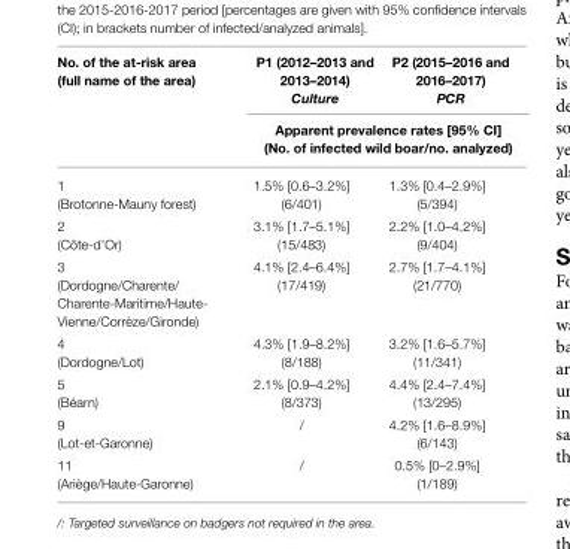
<table><thead><tr><td rowspan="2">No. of the at-risk area (full name of the area)</td><td>P1 (2012–2013 and 2013–2014) Culture</td><td>P2 (2015–2016 and 2016–2017) PCR</td></tr><tr><td colspan="2">Apparent prevalence rates [95% CI] (No. of infected wild boar/no. analyzed)</td></tr></thead><tbody><tr><td>1 (Brotonne-Mauny forest)</td><td>1.5% [0.6–3.2%] (6/401)</td><td>1.3% [0.4–2.9%] (5/394)</td></tr><tr><td>2 (Côte-d’Or)</td><td>3.1% [1.7–5.1%] (15/483)</td><td>2.2% [1.0–4.2%] (9/404)</td></tr><tr><td>3 (Dordogne/Charente/ Charente-Maritime/Haute- Vienne/Corrèze/Gironde)</td><td>4.1% [2.4–6.4%] (17/419)</td><td>2.7% [1.7–4.1%] (21/770)</td></tr><tr><td>4 (Dordogne/Lot)</td><td>4.3% [1.9–8.2%] (8/188)</td><td>3.2% [1.6–5.7%] (11/341)</td></tr><tr><td>5 (Béarn)</td><td>2.1% [0.9–4.2%] (8/373)</td><td>4.4% [2.4–7.4%] (13/295)</td></tr><tr><td>9 (Lot-et-Garonne)</td><td>/</td><td>4.2% [1.6–8.9%] (6/143)</td></tr><tr><td>11 (Ariège/Haute-Garonne)</td><td>/</td><td>0.5% [0–2.9%] (1/189)</td></tr></tbody></table>